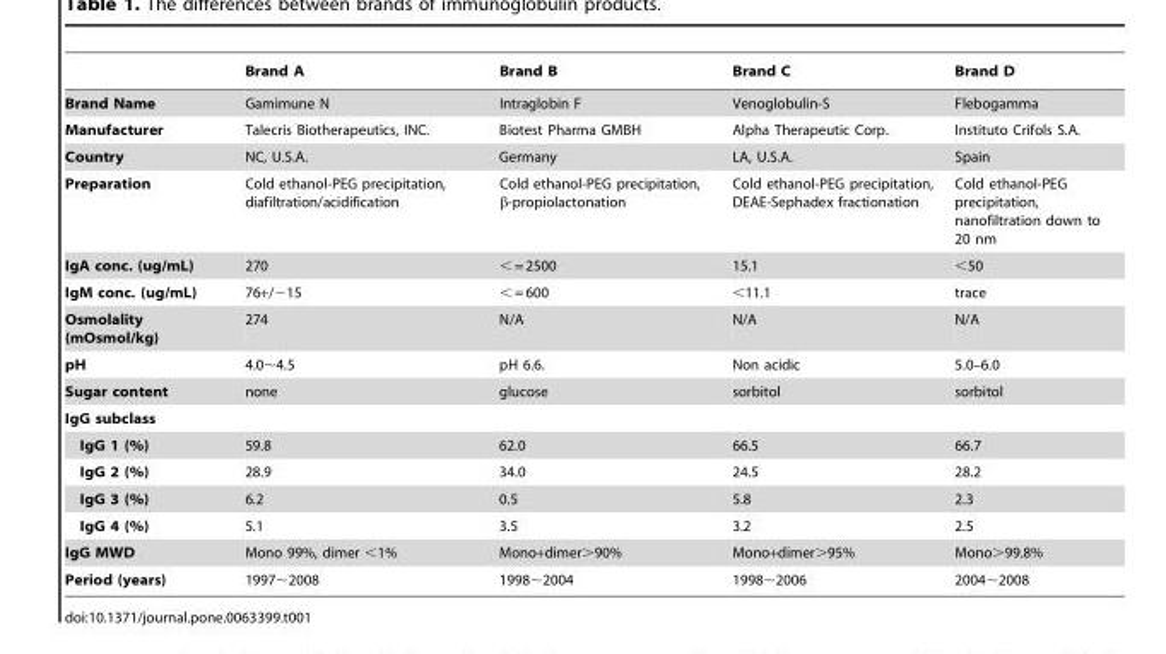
<table><thead><tr><td></td><td>Brand A</td><td>Brand B</td><td>Brand C</td><td>Brand D</td></tr></thead><tbody><tr><td>Brand Name</td><td>Gamimune N</td><td>Intraglobin F</td><td>Venoglobulin-S</td><td>Flebogamma</td></tr><tr><td>Manufacturer</td><td>Talecris Biotherapeutics, INC.</td><td>Biotest Pharma GMBH</td><td>Alpha Therapeutic Corp.</td><td>Instituto Crifols S.A.</td></tr><tr><td>Country</td><td>NC, U.S.A.</td><td>Germany</td><td>LA, U.S.A.</td><td>Spain</td></tr><tr><td>Preparation</td><td>Cold ethanol-PEG precipitation, diafiltration/acidification</td><td>Cold ethanol-PEG precipitation, β-propiolactonation</td><td>Cold ethanol-PEG precipitation, DEAE-Sephadex fractionation</td><td>Cold ethanol-PEG precipitation, nanofiltration down to 20 nm</td></tr><tr><td>IgA conc. (ug/mL)</td><td>270</td><td>&lt; = 2500</td><td>15.1</td><td>&lt;50</td></tr><tr><td>IgM conc. (ug/mL)</td><td>76+/−15</td><td>&lt; = 600</td><td>&lt;11.1</td><td>trace</td></tr><tr><td>Osmolality (mOsmol/kg)</td><td>274</td><td>N/A</td><td>N/A</td><td>N/A</td></tr><tr><td>pH</td><td>4.0∼4.5</td><td>pH 6.6.</td><td>Non acidic</td><td>5.0–6.0</td></tr><tr><td>Sugar content</td><td>none</td><td>glucose</td><td>sorbitol</td><td>sorbitol</td></tr><tr><td colspan="5">IgG subclass</td></tr><tr><td>IgG 1 (%)</td><td>59.8</td><td>62.0</td><td>66.5</td><td>66.7</td></tr><tr><td>IgG 2 (%)</td><td>28.9</td><td>34.0</td><td>24.5</td><td>28.2</td></tr><tr><td>IgG 3 (%)</td><td>6.2</td><td>0.5</td><td>5.8</td><td>2.3</td></tr><tr><td>IgG 4 (%)</td><td>5.1</td><td>3.5</td><td>3.2</td><td>2.5</td></tr><tr><td>IgG MWD</td><td>Mono 99%, dimer &lt;1%</td><td>Mono+dimer&gt;90%</td><td>Mono+dimer&gt;95%</td><td>Mono&gt;99.8%</td></tr><tr><td>Period (years)</td><td>1997∼2008</td><td>1998∼2004</td><td>1998∼2006</td><td>2004∼2008</td></tr></tbody></table>